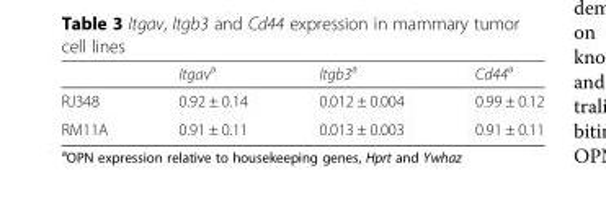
<table><thead><tr><td></td><td>Itgav<sup>a</sup></td><td>Itgb3<sup>a</sup></td><td>Cd44<sup>a</sup></td></tr></thead><tbody><tr><td>RJ348</td><td>0.92 ± 0.14</td><td>0.012 ± 0.004</td><td>0.99 ± 0.12</td></tr><tr><td>RM11A</td><td>0.91 ± 0.11</td><td>0.013 ± 0.003</td><td>0.91 ± 0.11</td></tr></tbody></table>